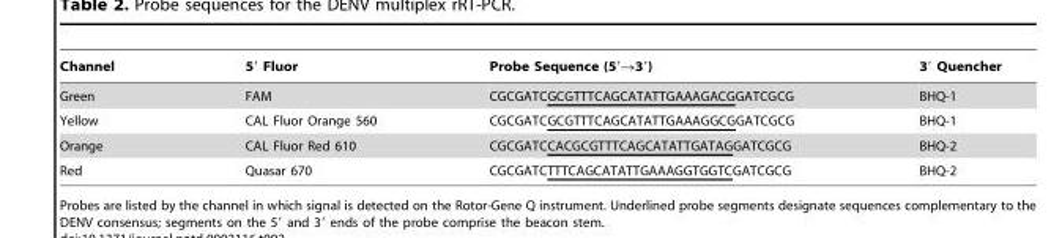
<table><thead><tr><td>Channel</td><td>5′ Fluor</td><td>Probe Sequence (5′→3′)</td><td>3′ Quencher</td></tr></thead><tbody><tr><td>Green</td><td>FAM</td><td>CGCGATCGCGTTTCAGCATATTGAAAGACGGATCGCG</td><td>BHQ-1</td></tr><tr><td>Yellow</td><td>CAL Fluor Orange 560</td><td>CGCGATCGCGTTTCAGCATATTGAAAGGCGGATCGCG</td><td>BHQ-1</td></tr><tr><td>Orange</td><td>CAL Fluor Red 610</td><td>CGCGATCCACGCGTTTCAGCATATTGATAGGATCGCG</td><td>BHQ-2</td></tr><tr><td>Red</td><td>Quasar 670</td><td>CGCGATCTTTCAGCATATTGAAAGGTGGTCGATCGCG</td><td>BHQ-2</td></tr></tbody></table>